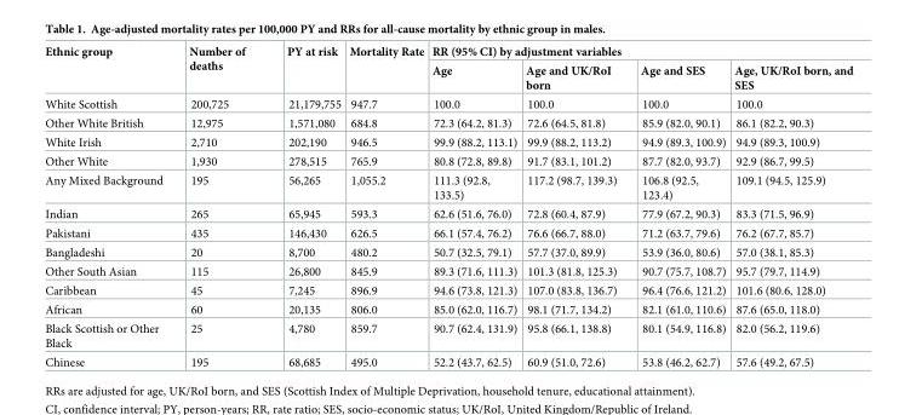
<table><thead><tr><td rowspan="2">Ethnic group</td><td rowspan="2">Number of deaths</td><td rowspan="2">PY at risk</td><td rowspan="2">Mortality Rate</td><td colspan="4">RR (95% CI) by adjustment variables</td></tr><tr><td>Age</td><td>Age and UK/RoI born</td><td>Age and SES</td><td>Age, UK/RoI born, and SES</td></tr></thead><tbody><tr><td>White Scottish</td><td>200,725</td><td>21,179,755</td><td>947.7</td><td>100.0</td><td>100.0</td><td>100.0</td><td>100.0</td></tr><tr><td>Other White British</td><td>12,975</td><td>1,571,080</td><td>684.8</td><td>72.3 (64.2, 81.3)</td><td>72.6 (64.5, 81.8)</td><td>85.9 (82.0, 90.1)</td><td>86.1 (82.2, 90.3)</td></tr><tr><td>White Irish</td><td>2,710</td><td>202,190</td><td>946.5</td><td>99.9 (88.2, 113.1)</td><td>99.9 (88.2, 113.2)</td><td>94.9 (89.3, 100.9)</td><td>94.9 (89.3, 100.9)</td></tr><tr><td>Other White</td><td>1,930</td><td>278,515</td><td>765.9</td><td>80.8 (72.8, 89.8)</td><td>91.7 (83.1, 101.2)</td><td>87.7 (82.0, 93.7)</td><td>92.9 (86.7, 99.5)</td></tr><tr><td>Any Mixed Background</td><td>195</td><td>56,265</td><td>1,055.2</td><td>111.3 (92.8, 133.5)</td><td>117.2 (98.7, 139.3)</td><td>106.8 (92.5, 123.4)</td><td>109.1 (94.5, 125.9)</td></tr><tr><td>Indian</td><td>265</td><td>65,945</td><td>593.3</td><td>62.6 (51.6, 76.0)</td><td>72.8 (60.4, 87.9)</td><td>77.9 (67.2, 90.3)</td><td>83.3 (71.5, 96.9)</td></tr><tr><td>Pakistani</td><td>435</td><td>146,430</td><td>626.5</td><td>66.1 (57.4, 76.2)</td><td>76.6 (66.7, 88.0)</td><td>71.2 (63.7, 79.6)</td><td>76.2 (67.7, 85.7)</td></tr><tr><td>Bangladeshi</td><td>20</td><td>8,700</td><td>480.2</td><td>50.7 (32.5, 79.1)</td><td>57.7 (37.0, 89.9)</td><td>53.9 (36.0, 80.6)</td><td>57.0 (38.1, 85.3)</td></tr><tr><td>Other South Asian</td><td>115</td><td>26,800</td><td>845.9</td><td>89.3 (71.6, 111.3)</td><td>101.3 (81.8, 125.3)</td><td>90.7 (75.7, 108.7)</td><td>95.7 (79.7, 114.9)</td></tr><tr><td>Caribbean</td><td>45</td><td>7,245</td><td>896.9</td><td>94.6 (73.8, 121.3)</td><td>107.0 (83.8, 136.7)</td><td>96.4 (76.6, 121.2)</td><td>101.6 (80.6, 128.0)</td></tr><tr><td>African</td><td>60</td><td>20,135</td><td>806.0</td><td>85.0 (62.0, 116.7)</td><td>98.1 (71.7, 134.2)</td><td>82.1 (61.0, 110.6)</td><td>87.6 (65.0, 118.0)</td></tr><tr><td>Black Scottish or Other Black</td><td>25</td><td>4,780</td><td>859.7</td><td>90.7 (62.4, 131.9)</td><td>95.8 (66.1, 138.8)</td><td>80.1 (54.9, 116.8)</td><td>82.0 (56.2, 119.6)</td></tr><tr><td>Chinese</td><td>195</td><td>68,685</td><td>495.0</td><td>52.2 (43.7, 62.5)</td><td>60.9 (51.0, 72.6)</td><td>53.8 (46.2, 62.7)</td><td>57.6 (49.2, 67.5)</td></tr></tbody></table>